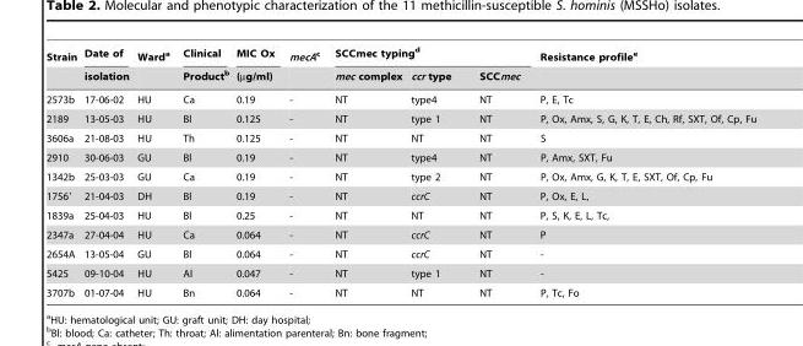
<table><thead><tr><td rowspan="2">Strain</td><td rowspan="2">Date of isolation</td><td rowspan="2">Ward<sup>a</sup></td><td rowspan="2">Clinical Product<sup>b</sup></td><td rowspan="2">MIC Ox (µg/ml)</td><td rowspan="2">mecAc</td><td colspan="3">SCCmec typing<sup>d</sup></td><td rowspan="2">Resistance profile<sup>e</sup></td></tr><tr><td>mec complex</td><td>ccr type</td><td>SCCmec</td></tr></thead><tbody><tr><td>2573b</td><td>17-06-02</td><td>HU</td><td>Ca</td><td>0.19</td><td>-</td><td>NT</td><td>type4</td><td>NT</td><td>P, E, Tc</td></tr><tr><td>2189</td><td>13-05-03</td><td>HU</td><td>Bl</td><td>0.125</td><td>-</td><td>NT</td><td>type 1</td><td>NT</td><td>P, Ox, Amx, S, G, K, T, E, Ch, Rf, SXT, Of, Cp, Fu</td></tr><tr><td>3606a</td><td>21-08-03</td><td>HU</td><td>Th</td><td>0.125</td><td>-</td><td>NT</td><td>NT</td><td>NT</td><td>S</td></tr><tr><td>2910</td><td>30-06-03</td><td>GU</td><td>Bl</td><td>0.19</td><td>-</td><td>NT</td><td>type4</td><td>NT</td><td>P, Amx, SXT, Fu</td></tr><tr><td>1342b</td><td>25-03-03</td><td>GU</td><td>Ca</td><td>0.19</td><td>-</td><td>NT</td><td>type 2</td><td>NT</td><td>P, Ox, Amx, G, K, T, E, SXT, Of, Cp, Fu</td></tr><tr><td>1756′</td><td>21-04-03</td><td>DH</td><td>Bl</td><td>0.19</td><td>-</td><td>NT</td><td>ccrC</td><td>NT</td><td>P, Ox, E, L,</td></tr><tr><td>1839a</td><td>25-04-03</td><td>HU</td><td>Bl</td><td>0.25</td><td>-</td><td>NT</td><td>NT</td><td>NT</td><td>P, S, K, E, L, Tc,</td></tr><tr><td>2347a</td><td>27-04-04</td><td>HU</td><td>Ca</td><td>0.064</td><td>-</td><td>NT</td><td>ccrC</td><td>NT</td><td>P</td></tr><tr><td>2654A</td><td>13-05-04</td><td>GU</td><td>Bl</td><td>0.064</td><td>-</td><td>NT</td><td>ccrC</td><td>NT</td><td>-</td></tr><tr><td>5425</td><td>09-10-04</td><td>HU</td><td>Al</td><td>0.047</td><td>-</td><td>NT</td><td>type 1</td><td>NT</td><td>-</td></tr><tr><td>3707b</td><td>01-07-04</td><td>HU</td><td>Bn</td><td>0.064</td><td>-</td><td>NT</td><td>NT</td><td>NT</td><td>P, Tc, Fo</td></tr></tbody></table>